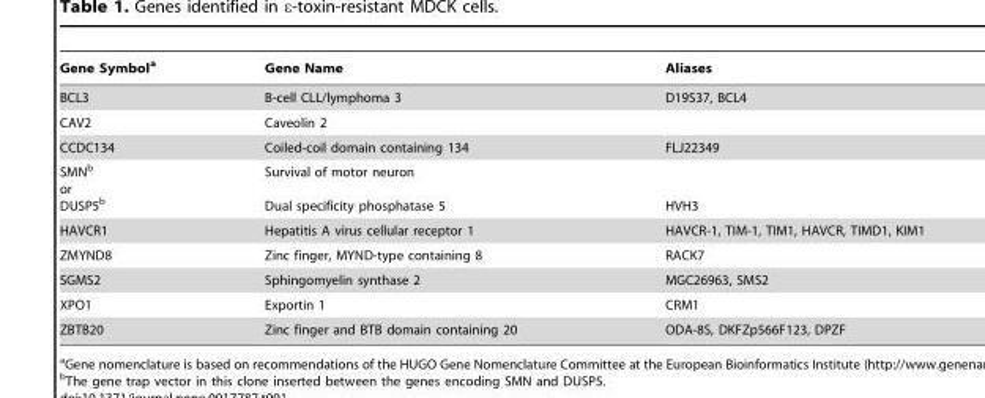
<table><thead><tr><td>Gene Symbol<sup>a</sup></td><td>Gene Name</td><td>Aliases</td></tr></thead><tbody><tr><td>BCL3</td><td>B-cell CLL/lymphoma 3</td><td>D19S37, BCL4</td></tr><tr><td>CAV2</td><td>Caveolin 2</td><td></td></tr><tr><td>CCDC134</td><td>Coiled-coil domain containing 134</td><td>FLJ22349</td></tr><tr><td>SMN<sup>b</sup> or DUSP5<sup>b</sup></td><td>Survival of motor neuron Dual specificity phosphatase 5</td><td>HVH3</td></tr><tr><td>HAVCR1</td><td>Hepatitis A virus cellular receptor 1</td><td>HAVCR-1, TIM-1, TIM1, HAVCR, TIMD1, KIM1</td></tr><tr><td>ZMYND8</td><td>Zinc finger, MYND-type containing 8</td><td>RACK7</td></tr><tr><td>SGMS2</td><td>Sphingomyelin synthase 2</td><td>MGC26963, SMS2</td></tr><tr><td>XPO1</td><td>Exportin 1</td><td>CRM1</td></tr><tr><td>ZBTB20</td><td>Zinc finger and BTB domain containing 20</td><td>ODA-8S, DKFZp566F123, DPZF</td></tr></tbody></table>